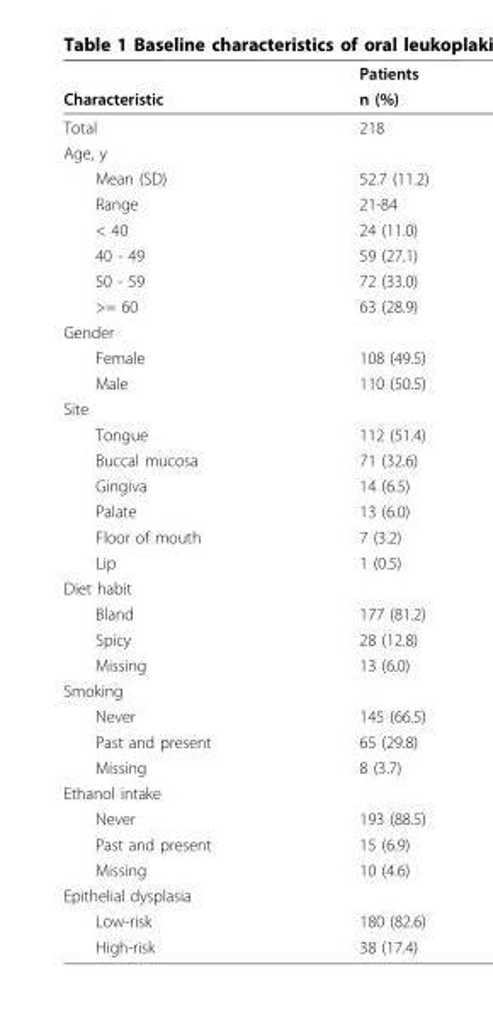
<table><thead><tr><td rowspan="2">Characteristic</td><td rowspan="2">Patients n (%)</td></tr><tr></tr></thead><tbody><tr><td>Total</td><td>218</td></tr><tr><td colspan="2">Age, y</td></tr><tr><td>Mean (SD)</td><td>52.7 (11.2)</td></tr><tr><td>Range</td><td>21-84</td></tr><tr><td>&lt; 40</td><td>24 (11.0)</td></tr><tr><td>40 - 49</td><td>59 (27.1)</td></tr><tr><td>50 - 59</td><td>72 (33.0)</td></tr><tr><td>&gt;= 60</td><td>63 (28.9)</td></tr><tr><td colspan="2">Gender</td></tr><tr><td>Female</td><td>108 (49.5)</td></tr><tr><td>Male</td><td>110 (50.5)</td></tr><tr><td colspan="2">Site</td></tr><tr><td>Tongue</td><td>112 (51.4)</td></tr><tr><td>Buccal mucosa</td><td>71 (32.6)</td></tr><tr><td>Gingiva</td><td>14 (6.5)</td></tr><tr><td>Palate</td><td>13 (6.0)</td></tr><tr><td>Floor of mouth</td><td>7 (3.2)</td></tr><tr><td>Lip</td><td>1 (0.5)</td></tr><tr><td colspan="2">Diet habit</td></tr><tr><td>Bland</td><td>177 (81.2)</td></tr><tr><td>Spicy</td><td>28 (12.8)</td></tr><tr><td>Missing</td><td>13 (6.0)</td></tr><tr><td colspan="2">Smoking</td></tr><tr><td>Never</td><td>145 (66.5)</td></tr><tr><td>Past and present</td><td>65 (29.8)</td></tr><tr><td>Missing</td><td>8 (3.7)</td></tr><tr><td colspan="2">Ethanol intake</td></tr><tr><td>Never</td><td>193 (88.5)</td></tr><tr><td>Past and present</td><td>15 (6.9)</td></tr><tr><td>Missing</td><td>10 (4.6)</td></tr><tr><td colspan="2">Epithelial dysplasia</td></tr><tr><td>Low-risk</td><td>180 (82.6)</td></tr><tr><td>High-risk</td><td>38 (17.4)</td></tr></tbody></table>